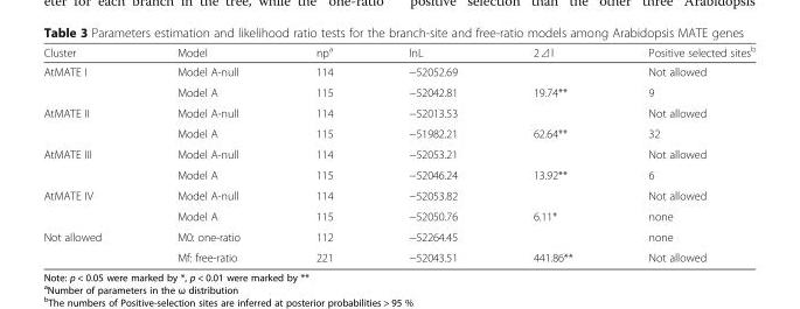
<table><thead><tr><td>Cluster</td><td>Model</td><td>np<sup>a</sup></td><td>lnL</td><td>2⊿l</td><td>Positive selected sites<sup>b</sup></td></tr></thead><tbody><tr><td rowspan="2">AtMATE I</td><td>Model A-null</td><td>114</td><td>−52052.69</td><td></td><td>Not allowed</td></tr><tr><td>Model A</td><td>115</td><td>−52042.81</td><td>19.74**</td><td>9</td></tr><tr><td rowspan="2">AtMATE II</td><td>Model A-null</td><td>114</td><td>−52013.53</td><td></td><td>Not allowed</td></tr><tr><td>Model A</td><td>115</td><td>−51982.21</td><td>62.64**</td><td>32</td></tr><tr><td rowspan="2">AtMATE III</td><td>Model A-null</td><td>114</td><td>−52053.21</td><td></td><td>Not allowed</td></tr><tr><td>Model A</td><td>115</td><td>−52046.24</td><td>13.92**</td><td>6</td></tr><tr><td rowspan="2">AtMATE IV</td><td>Model A-null</td><td>114</td><td>−52053.82</td><td></td><td>Not allowed</td></tr><tr><td>Model A</td><td>115</td><td>−52050.76</td><td>6.11*</td><td>none</td></tr><tr><td rowspan="2">Not allowed</td><td>M0: one-ratio</td><td>112</td><td>−52264.45</td><td></td><td>none</td></tr><tr><td>Mf: free-ratio</td><td>221</td><td>−52043.51</td><td>441.86**</td><td>Not allowed</td></tr></tbody></table>